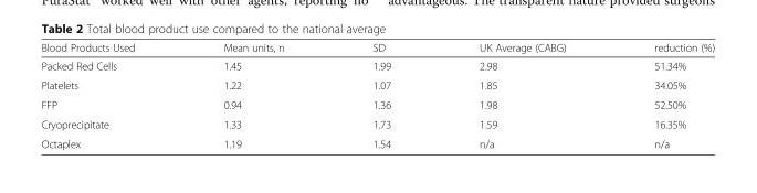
<table><thead><tr><td>Blood Products Used</td><td>Mean units, n</td><td>SD</td><td>UK Average (CABG)</td><td>reduction (%)</td></tr></thead><tbody><tr><td>Packed Red Cells</td><td>1.45</td><td>1.99</td><td>2.98</td><td>51.34%</td></tr><tr><td>Platelets</td><td>1.22</td><td>1.07</td><td>1.85</td><td>34.05%</td></tr><tr><td>FFP</td><td>0.94</td><td>1.36</td><td>1.98</td><td>52.50%</td></tr><tr><td>Cryoprecipitate</td><td>1.33</td><td>1.73</td><td>1.59</td><td>16.35%</td></tr><tr><td>Octaplex</td><td>1.19</td><td>1.54</td><td>n/a</td><td>n/a</td></tr></tbody></table>